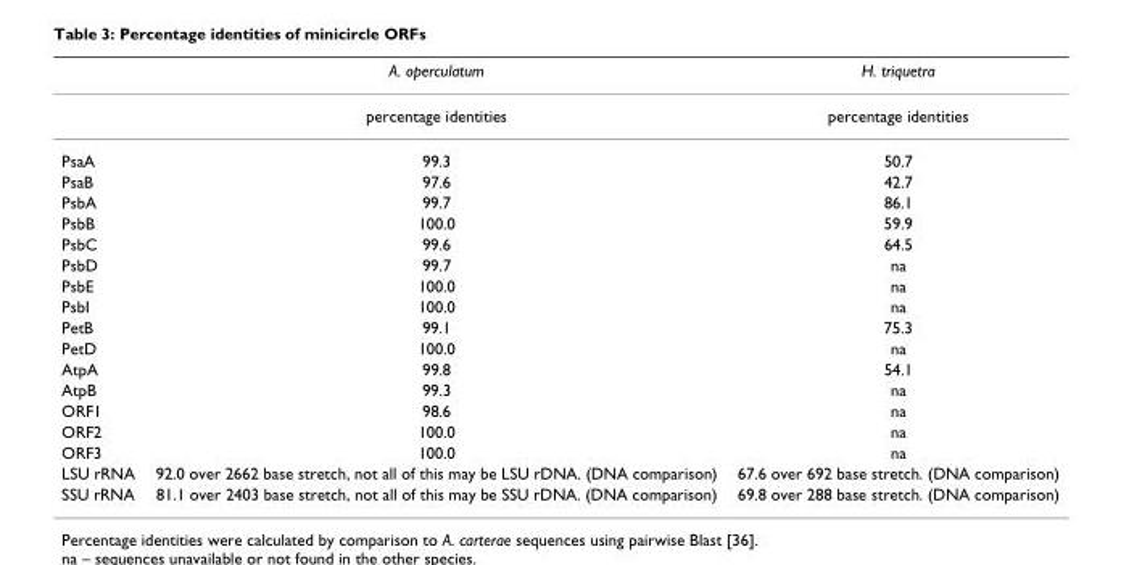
<table><thead><tr><td></td><td>A. operculatum</td><td>H. triquetra</td></tr></thead><tbody><tr><td></td><td>percentage identities</td><td>percentage identities</td></tr><tr><td>PsaA</td><td>99.3</td><td>50.7</td></tr><tr><td>PsaB</td><td>97.6</td><td>42.7</td></tr><tr><td>PsbA</td><td>99.7</td><td>86.1</td></tr><tr><td>PsbB</td><td>100.0</td><td>59.9</td></tr><tr><td>PsbC</td><td>99.6</td><td>64.5</td></tr><tr><td>PsbD</td><td>99.7</td><td>na</td></tr><tr><td>PsbE</td><td>100.0</td><td>na</td></tr><tr><td>PsbI</td><td>100.0</td><td>na</td></tr><tr><td>PetB</td><td>99.1</td><td>75.3</td></tr><tr><td>PetD</td><td>100.0</td><td>na</td></tr><tr><td>AtpA</td><td>99.8</td><td>54.1</td></tr><tr><td>AtpB</td><td>99.3</td><td>na</td></tr><tr><td>ORF1</td><td>98.6</td><td>na</td></tr><tr><td>ORF2</td><td>100.0</td><td>na</td></tr><tr><td>ORF3</td><td>100.0</td><td>na</td></tr><tr><td>LSU rRNA</td><td>92.0 over 2662 base stretch, not all of this may be LSU rDNA. (DNA comparison)</td><td>67.6 over 692 base stretch. (DNA comparison)</td></tr><tr><td>SSU rRNA</td><td>81.1 over 2403 base stretch, not all of this may be SSU rDNA. (DNA comparison)</td><td>69.8 over 288 base stretch. (DNA comparison)</td></tr></tbody></table>